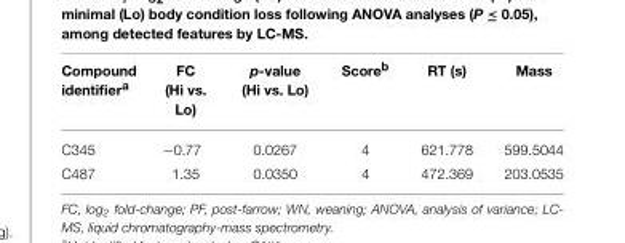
<table><thead><tr><td>Compound identifier<sup>a</sup></td><td>FC (Hi vs. Lo)</td><td>p-value (Hi vs. Lo)</td><td>Score<sup>b</sup></td><td>RT (s)</td><td>Mass</td></tr></thead><tbody><tr><td>C345</td><td>−0.77</td><td>0.0267</td><td>4</td><td>621.778</td><td>599.5044</td></tr><tr><td>C487</td><td>1.35</td><td>0.0350</td><td>4</td><td>472.369</td><td>203.0535</td></tr></tbody></table>